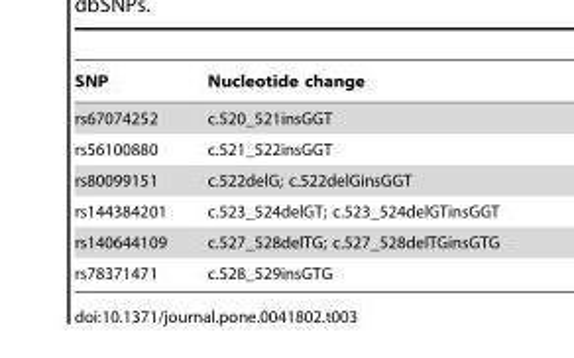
<table><thead><tr><td>SNP</td><td>Nucleotide change</td></tr></thead><tbody><tr><td>rs67074252</td><td>c.520_521insGGT</td></tr><tr><td>rs56100880</td><td>c.521_522insGGT</td></tr><tr><td>rs80099151</td><td>c.522delG; c.522delGinsGGT</td></tr><tr><td>rs144384201</td><td>c.523_524delGT; c.523_524delGTinsGGT</td></tr><tr><td>rs140644109</td><td>c.527_528delTG; c.527_528delTGinsGTG</td></tr><tr><td>rs78371471</td><td>c.528_529insGTG</td></tr></tbody></table>